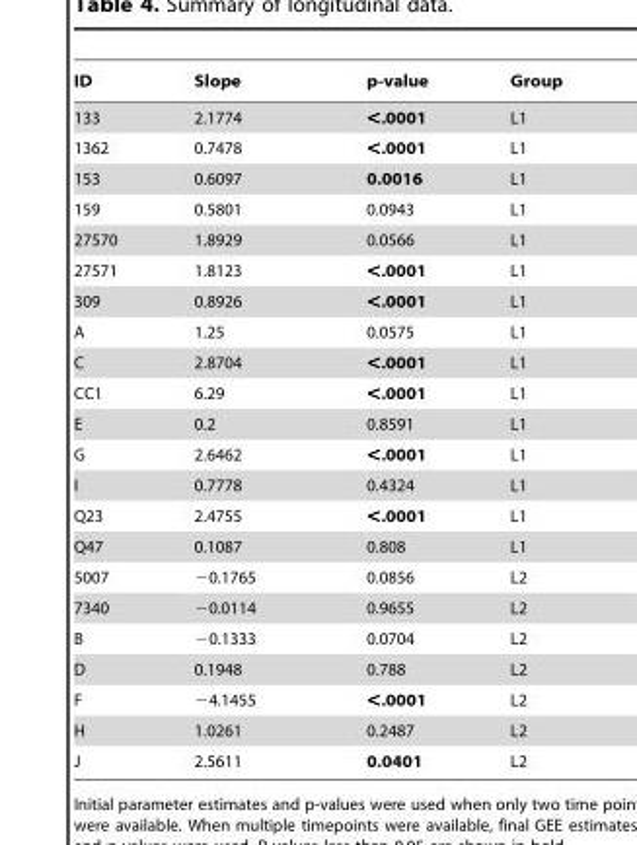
<table><thead><tr><td>ID</td><td>Slope</td><td>p-value</td><td>Group</td></tr></thead><tbody><tr><td>133</td><td>2.1774</td><td>&lt;.0001</td><td>L1</td></tr><tr><td>1362</td><td>0.7478</td><td>&lt;.0001</td><td>L1</td></tr><tr><td>153</td><td>0.6097</td><td>0.0016</td><td>L1</td></tr><tr><td>159</td><td>0.5801</td><td>0.0943</td><td>L1</td></tr><tr><td>27570</td><td>1.8929</td><td>0.0566</td><td>L1</td></tr><tr><td>27571</td><td>1.8123</td><td>&lt;.0001</td><td>L1</td></tr><tr><td>309</td><td>0.8926</td><td>&lt;.0001</td><td>L1</td></tr><tr><td>A</td><td>1.25</td><td>0.0575</td><td>L1</td></tr><tr><td>C</td><td>2.8704</td><td>&lt;.0001</td><td>L1</td></tr><tr><td>CC1</td><td>6.29</td><td>&lt;.0001</td><td>L1</td></tr><tr><td>E</td><td>0.2</td><td>0.8591</td><td>L1</td></tr><tr><td>G</td><td>2.6462</td><td>&lt;.0001</td><td>L1</td></tr><tr><td>I</td><td>0.7778</td><td>0.4324</td><td>L1</td></tr><tr><td>Q23</td><td>2.4755</td><td>&lt;.0001</td><td>L1</td></tr><tr><td>Q47</td><td>0.1087</td><td>0.808</td><td>L1</td></tr><tr><td>5007</td><td>−0.1765</td><td>0.0856</td><td>L2</td></tr><tr><td>7340</td><td>−0.0114</td><td>0.9655</td><td>L2</td></tr><tr><td>B</td><td>−0.1333</td><td>0.0704</td><td>L2</td></tr><tr><td>D</td><td>0.1948</td><td>0.788</td><td>L2</td></tr><tr><td>F</td><td>−4.1455</td><td>&lt;.0001</td><td>L2</td></tr><tr><td>H</td><td>1.0261</td><td>0.2487</td><td>L2</td></tr><tr><td>J</td><td>2.5611</td><td>0.0401</td><td>L2</td></tr></tbody></table>